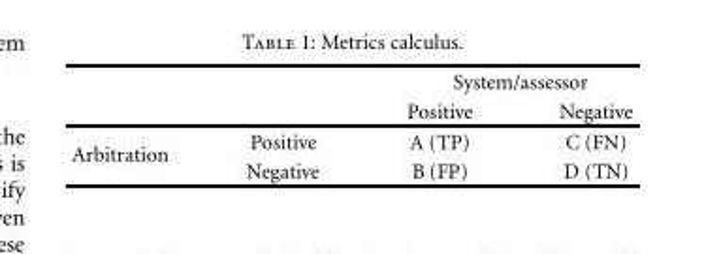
<table><thead><tr><td rowspan="2"></td><td rowspan="2"></td><td colspan="2">System/assessor</td></tr><tr><td>Positive</td><td>Negative</td></tr></thead><tbody><tr><td rowspan="2">Arbitration</td><td>Positive</td><td>A (TP)</td><td>C (FN)</td></tr><tr><td>Negative</td><td>B (FP)</td><td>D (TN)</td></tr></tbody></table>